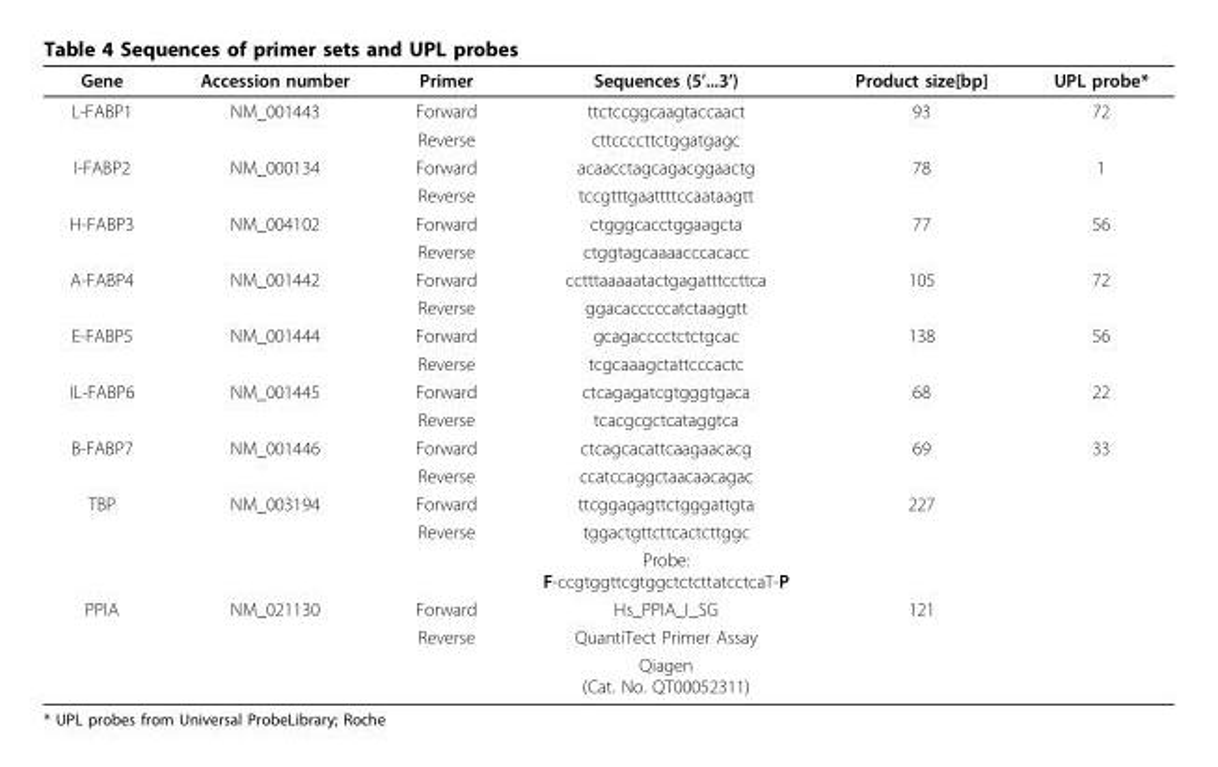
<table><thead><tr><td>Gene</td><td>Accession number</td><td>Primer</td><td>Sequences (5’...3’)</td><td>Product size[bp]</td><td>UPL probe*</td></tr></thead><tbody><tr><td rowspan="2">L-FABP1</td><td>NM_001443</td><td>Forward</td><td>ttctccggcaagtaccaact</td><td>93</td><td>72</td></tr><tr><td></td><td>Reverse</td><td>cttccccttctggatgagc</td><td></td><td></td></tr><tr><td rowspan="2">I-FABP2</td><td>NM_000134</td><td>Forward</td><td>acaacctagcagacggaactg</td><td>78</td><td>1</td></tr><tr><td></td><td>Reverse</td><td>tccgtttgaattttccaataagtt</td><td></td><td></td></tr><tr><td rowspan="2">H-FABP3</td><td>NM_004102</td><td>Forward</td><td>ctgggcacctggaagcta</td><td>77</td><td>56</td></tr><tr><td></td><td>Reverse</td><td>ctggtagcaaaacccacacc</td><td></td><td></td></tr><tr><td rowspan="2">A-FABP4</td><td>NM_001442</td><td>Forward</td><td>cctttaaaaatactgagatttccttca</td><td>105</td><td>72</td></tr><tr><td></td><td>Reverse</td><td>ggacacccccatctaaggtt</td><td></td><td></td></tr><tr><td rowspan="2">E-FABP5</td><td>NM_001444</td><td>Forward</td><td>gcagacccctctctgcac</td><td>138</td><td>56</td></tr><tr><td></td><td>Reverse</td><td>tcgcaaagctattcccactc</td><td></td><td></td></tr><tr><td rowspan="2">IL-FABP6</td><td>NM_001445</td><td>Forward</td><td>ctcagagatcgtgggtgaca</td><td>68</td><td>22</td></tr><tr><td></td><td>Reverse</td><td>tcacgcgctcataggtca</td><td></td><td></td></tr><tr><td rowspan="2">B-FABP7</td><td>NM_001446</td><td>Forward</td><td>ctcagcacattcaagaacacg</td><td>69</td><td>33</td></tr><tr><td></td><td>Reverse</td><td>ccatccaggctaacaacagac</td><td></td><td></td></tr><tr><td rowspan="3">TBP</td><td>NM_003194</td><td>Forward</td><td>ttcggagagttctgggattgta</td><td>227</td><td></td></tr><tr><td></td><td>Reverse</td><td>tggactgttcttcactcttggc</td><td></td><td></td></tr><tr><td></td><td></td><td>Probe: F-ccgtggttcgtggctctcttatcctcaT-P</td><td></td><td></td></tr><tr><td rowspan="3">PPIA</td><td>NM_021130</td><td>Forward</td><td>Hs_PPIA_I_SG</td><td>121</td><td></td></tr><tr><td></td><td>Reverse</td><td>QuantiTect Primer Assay</td><td></td><td></td></tr><tr><td></td><td></td><td>Qiagen (Cat. No. QT00052311)</td><td></td><td></td></tr></tbody></table>